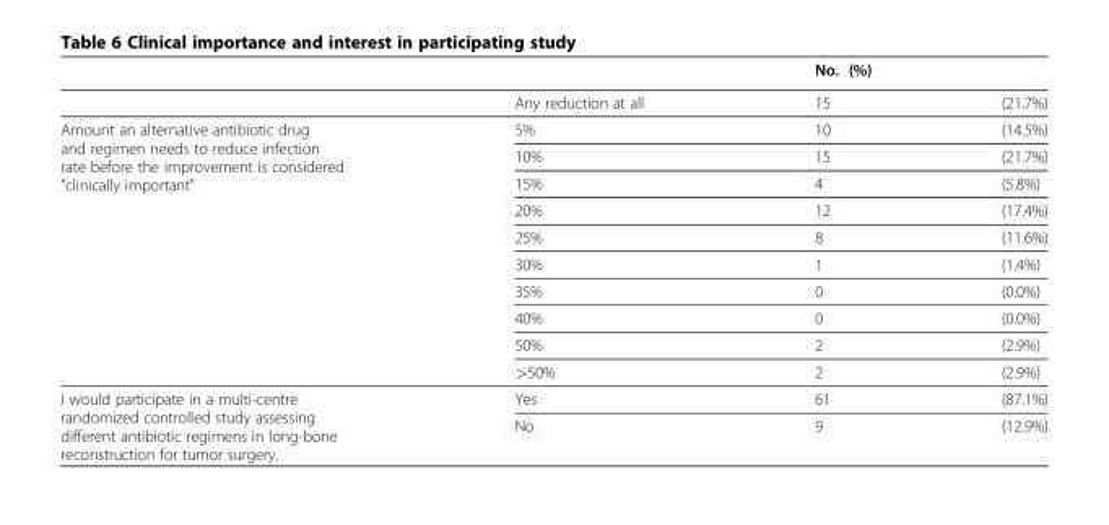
<table><thead><tr><td rowspan="2"></td><td rowspan="2">Any reduction at all</td><td colspan="2">No. (%)</td></tr><tr><td>15</td><td>(21.7%)</td></tr></thead><tbody><tr><td rowspan="10">Amount an alternative antibiotic drug and regimen needs to reduce infection rate before the improvement is considered &quot;clinically important&quot;</td><td>5%</td><td>10</td><td>(14.5%)</td></tr><tr><td>10%</td><td>15</td><td>(21.7%)</td></tr><tr><td>15%</td><td>4</td><td>(5.8%)</td></tr><tr><td>20%</td><td>12</td><td>(17.4%)</td></tr><tr><td>25%</td><td>8</td><td>(11.6%)</td></tr><tr><td>30%</td><td>1</td><td>(1.4%)</td></tr><tr><td>35%</td><td>0</td><td>(0.0%)</td></tr><tr><td>40%</td><td>0</td><td>(0.0%)</td></tr><tr><td>50%</td><td>2</td><td>(2.9%)</td></tr><tr><td>&gt;50%</td><td>2</td><td>(2.9%)</td></tr><tr><td rowspan="2">I would participate in a multi-centre randomized controlled study assessing different antibiotic regimens in long-bone reconstruction for tumor surgery.</td><td>Yes</td><td>61</td><td>(87.1%)</td></tr><tr><td>No</td><td>9</td><td>(12.9%)</td></tr></tbody></table>